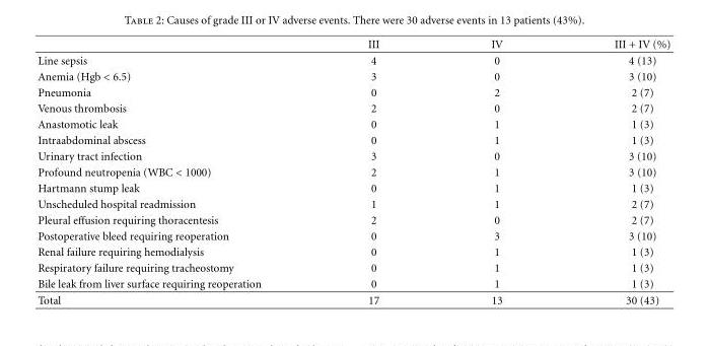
<table><thead><tr><td></td><td>III</td><td>IV</td><td>III + IV (%)</td></tr></thead><tbody><tr><td>Line sepsis</td><td>4</td><td>0</td><td>4 (13)</td></tr><tr><td>Anemia (Hgb &lt; 6.5)</td><td>3</td><td>0</td><td>3 (10)</td></tr><tr><td>Pneumonia</td><td>0</td><td>2</td><td>2 (7)</td></tr><tr><td>Venous thrombosis</td><td>2</td><td>0</td><td>2 (7)</td></tr><tr><td>Anastomotic leak</td><td>0</td><td>1</td><td>1 (3)</td></tr><tr><td>Intraabdominal abscess</td><td>0</td><td>1</td><td>1 (3)</td></tr><tr><td>Urinary tract infection</td><td>3</td><td>0</td><td>3 (10)</td></tr><tr><td>Profound neutropenia (WBC &lt; 1000)</td><td>2</td><td>1</td><td>3 (10)</td></tr><tr><td>Hartmann stump leak</td><td>0</td><td>1</td><td>1 (3)</td></tr><tr><td>Unscheduled hospital readmission</td><td>1</td><td>1</td><td>2 (7)</td></tr><tr><td>Pleural effusion requiring thoracentesis</td><td>2</td><td>0</td><td>2 (7)</td></tr><tr><td>Postoperative bleed requiring reoperation</td><td>0</td><td>3</td><td>3 (10)</td></tr><tr><td>Renal failure requiring hemodialysis</td><td>0</td><td>1</td><td>1 (3)</td></tr><tr><td>Respiratory failure requiring tracheostomy</td><td>0</td><td>1</td><td>1 (3)</td></tr><tr><td>Bile leak from liver surface requiring reoperation</td><td>0</td><td>1</td><td>1 (3)</td></tr><tr><td>Total</td><td>17</td><td>13</td><td>30 (43)</td></tr></tbody></table>